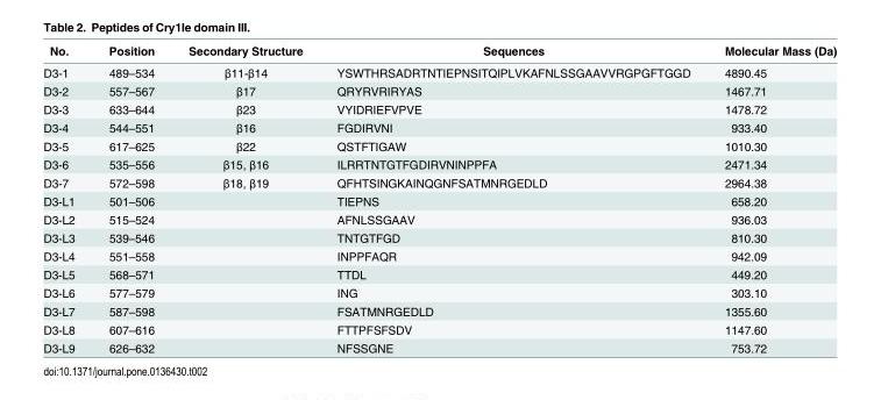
<table><thead><tr><td>No.</td><td>Position</td><td>Secondary Structure</td><td>Sequences</td><td>Molecular Mass (Da)</td></tr></thead><tbody><tr><td>D3-1</td><td>489–534</td><td>β11-β14</td><td>YSWTHRSADRTNTIEPNSITQIPLVKAFNLSSGAAVVRGPGFTGGD</td><td>4890.45</td></tr><tr><td>D3-2</td><td>557–567</td><td>β17</td><td>QRYRVRIRYAS</td><td>1467.71</td></tr><tr><td>D3-3</td><td>633–644</td><td>β23</td><td>VYIDRIEFVPVE</td><td>1478.72</td></tr><tr><td>D3-4</td><td>544–551</td><td>β16</td><td>FGDIRVNI</td><td>933.40</td></tr><tr><td>D3-5</td><td>617–625</td><td>β22</td><td>QSTFTIGAW</td><td>1010.30</td></tr><tr><td>D3-6</td><td>535–556</td><td>β15, β16</td><td>ILRRTNTGTFGDIRVNINPPFA</td><td>2471.34</td></tr><tr><td>D3-7</td><td>572–598</td><td>β18, β19</td><td>QFHTSINGKAINQGNFSATMNRGEDLD</td><td>2964.38</td></tr><tr><td>D3-L1</td><td>501–506</td><td></td><td>TIEPNS</td><td>658.20</td></tr><tr><td>D3-L2</td><td>515–524</td><td></td><td>AFNLSSGAAV</td><td>936.03</td></tr><tr><td>D3-L3</td><td>539–546</td><td></td><td>TNTGTFGD</td><td>810.30</td></tr><tr><td>D3-L4</td><td>551–558</td><td></td><td>INPPFAQR</td><td>942.09</td></tr><tr><td>D3-L5</td><td>568–571</td><td></td><td>TTDL</td><td>449.20</td></tr><tr><td>D3-L6</td><td>577–579</td><td></td><td>ING</td><td>303.10</td></tr><tr><td>D3-L7</td><td>587–598</td><td></td><td>FSATMNRGEDLD</td><td>1355.60</td></tr><tr><td>D3-L8</td><td>607–616</td><td></td><td>FTTPFSFSDV</td><td>1147.60</td></tr><tr><td>D3-L9</td><td>626–632</td><td></td><td>NFSSGNE</td><td>753.72</td></tr></tbody></table>